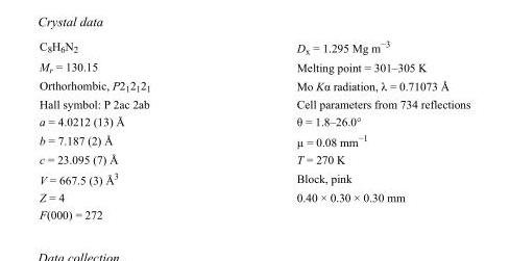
<table><tbody><tr><td>C<sub>8</sub>H<sub>6</sub>N<sub>2</sub></td><td>D<sub>x</sub> = 1.295 Mg m<sup>−3</sup></td></tr><tr><td>M<sub>r</sub> = 130.15</td><td>Melting point = 301–305 K</td></tr><tr><td>Orthorhombic, P2<sub>1</sub>2<sub>1</sub>2<sub>1</sub></td><td>Mo Kα radiation, λ = 0.71073 Å</td></tr><tr><td>Hall symbol: P 2ac 2ab</td><td>Cell parameters from 734 reflections</td></tr><tr><td>a = 4.0212 (13) Å</td><td>θ = 1.8–26.0°</td></tr><tr><td>b = 7.187 (2) Å</td><td>µ = 0.08 mm<sup>−1</sup></td></tr><tr><td>c = 23.095 (7) Å</td><td>T = 270 K</td></tr><tr><td>V = 667.5 (3) Å<sup>3</sup></td><td>Block, pink</td></tr><tr><td>Z = 4</td><td>0.40 × 0.30 × 0.30 mm</td></tr><tr><td>F(000) = 272</td><td></td></tr></tbody></table>